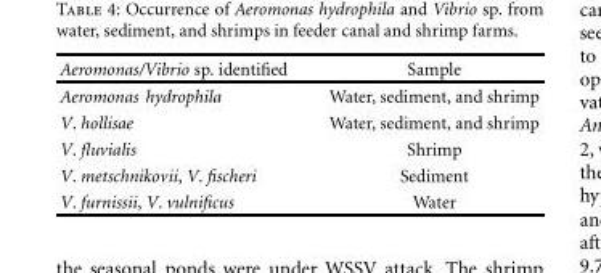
<table><thead><tr><td>Aeromonas/Vibrio sp. identified</td><td>Sample</td></tr></thead><tbody><tr><td>Aeromonas hydrophila</td><td>Water, sediment, and shrimp</td></tr><tr><td>V. hollisae</td><td>Water, sediment, and shrimp</td></tr><tr><td>V. fluvialis</td><td>Shrimp</td></tr><tr><td>V. metschnikovii, V. fischeri</td><td>Sediment</td></tr><tr><td>V. furnissii, V. vulnificus</td><td>Water</td></tr></tbody></table>